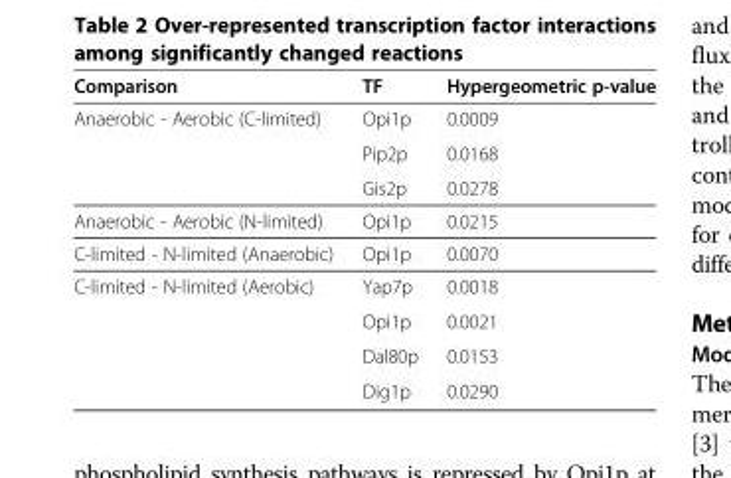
<table><thead><tr><td>Comparison</td><td>TF</td><td>Hypergeometric p-value</td></tr></thead><tbody><tr><td rowspan="3">Anaerobic - Aerobic (C-limited)</td><td>Opi1p</td><td>0.0009</td></tr><tr><td>Pip2p</td><td>0.0168</td></tr><tr><td>Gis2p</td><td>0.0278</td></tr><tr><td>Anaerobic - Aerobic (N-limited)</td><td>Opi1p</td><td>0.0215</td></tr><tr><td>C-limited - N-limited (Anaerobic)</td><td>Opi1p</td><td>0.0070</td></tr><tr><td rowspan="4">C-limited - N-limited (Aerobic)</td><td>Yap7p</td><td>0.0018</td></tr><tr><td>Opi1p</td><td>0.0021</td></tr><tr><td>Dal80p</td><td>0.0153</td></tr><tr><td>Dig1p</td><td>0.0290</td></tr></tbody></table>